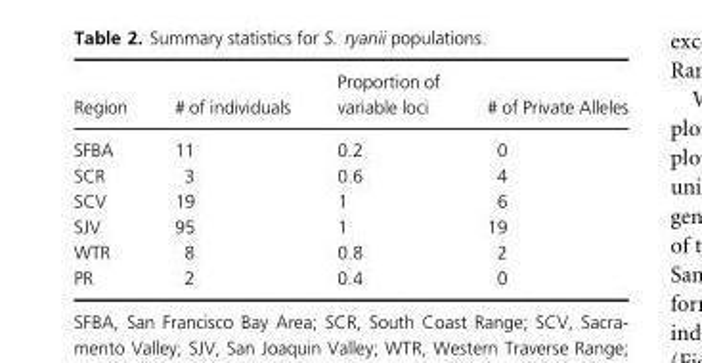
<table><thead><tr><td>Region</td><td># of individuals</td><td>Proportion of variable loci</td><td># of Private Alleles</td></tr></thead><tbody><tr><td>SFBA</td><td>11</td><td>0.2</td><td>0</td></tr><tr><td>SCR</td><td>3</td><td>0.6</td><td>4</td></tr><tr><td>SCV</td><td>19</td><td>1</td><td>6</td></tr><tr><td>SJV</td><td>95</td><td>1</td><td>19</td></tr><tr><td>WTR</td><td>8</td><td>0.8</td><td>2</td></tr><tr><td>PR</td><td>2</td><td>0.4</td><td>0</td></tr></tbody></table>